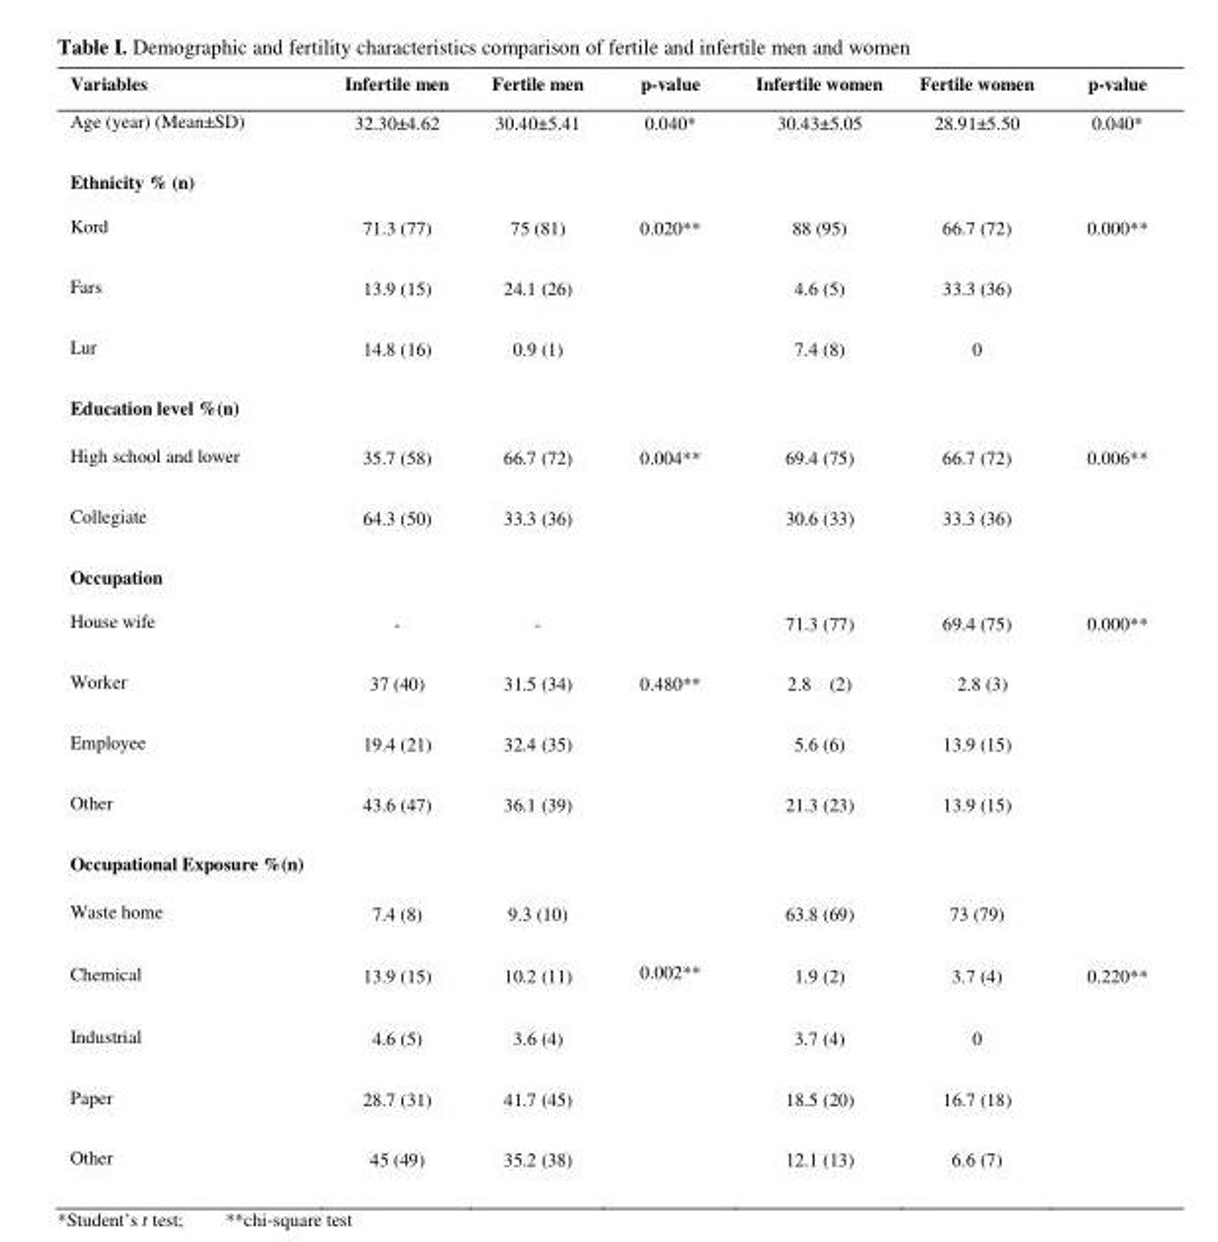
<table><thead><tr><td>Variables</td><td>Infertile men</td><td>Fertile men</td><td>p-value</td><td>Infertile women</td><td>Fertile women</td><td>p-value</td></tr></thead><tbody><tr><td>Age (year) (Mean±SD)</td><td>32.30±4.62</td><td>30.40±5.41</td><td>0.040*</td><td>30.43±5.05</td><td>28.91±5.50</td><td>0.040*</td></tr><tr><td colspan="7">Ethnicity % (n)</td></tr><tr><td>Kord</td><td>71.3 (77)</td><td>75 (81)</td><td>0.020**</td><td>88 (95)</td><td>66.7 (72)</td><td>0.000**</td></tr><tr><td>Fars</td><td>13.9 (15)</td><td>24.1 (26)</td><td></td><td>4.6 (5)</td><td>33.3 (36)</td><td></td></tr><tr><td>Lur</td><td>14.8 (16)</td><td>0.9 (1)</td><td></td><td>7.4 (8)</td><td>0</td><td></td></tr><tr><td colspan="7">Education level %(n)</td></tr><tr><td>High school and lower</td><td>35.7 (58)</td><td>66.7 (72)</td><td>0.004**</td><td>69.4 (75)</td><td>66.7 (72)</td><td>0.006**</td></tr><tr><td>Collegiate</td><td>64.3 (50)</td><td>33.3 (36)</td><td></td><td>30.6 (33)</td><td>33.3 (36)</td><td></td></tr><tr><td colspan="7">Occupation</td></tr><tr><td>House wife</td><td>-</td><td>-</td><td></td><td>71.3 (77)</td><td>69.4 (75)</td><td>0.000**</td></tr><tr><td>Worker</td><td>37 (40)</td><td>31.5 (34)</td><td>0.480**</td><td>2.8 (2)</td><td>2.8 (3)</td><td></td></tr><tr><td>Employee</td><td>19.4 (21)</td><td>32.4 (35)</td><td></td><td>5.6 (6)</td><td>13.9 (15)</td><td></td></tr><tr><td>Other</td><td>43.6 (47)</td><td>36.1 (39)</td><td></td><td>21.3 (23)</td><td>13.9 (15)</td><td></td></tr><tr><td colspan="7">Occupational Exposure %(n)</td></tr><tr><td>Waste home</td><td>7.4 (8)</td><td>9.3 (10)</td><td></td><td>63.8 (69)</td><td>73 (79)</td><td></td></tr><tr><td>Chemical</td><td>13.9 (15)</td><td>10.2 (11)</td><td>0.002**</td><td>1.9 (2)</td><td>3.7 (4)</td><td>0.220**</td></tr><tr><td>Industrial</td><td>4.6 (5)</td><td>3.6 (4)</td><td></td><td>3.7 (4)</td><td>0</td><td></td></tr><tr><td>Paper</td><td>28.7 (31)</td><td>41.7 (45)</td><td></td><td>18.5 (20)</td><td>16.7 (18)</td><td></td></tr><tr><td>Other</td><td>45 (49)</td><td>35.2 (38)</td><td></td><td>12.1 (13)</td><td>6.6 (7)</td><td></td></tr></tbody></table>